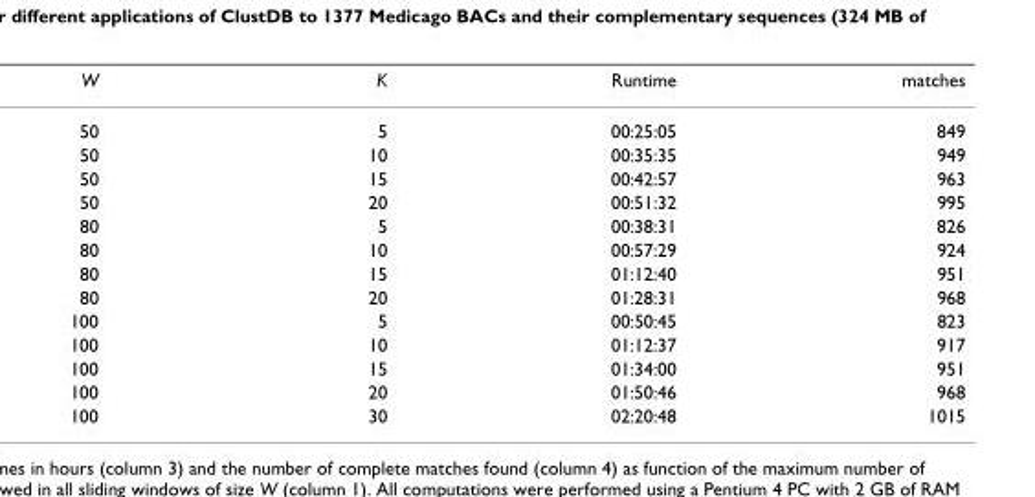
<table><thead><tr><td>W</td><td>K</td><td>Runtime</td><td>matches</td></tr></thead><tbody><tr><td>50</td><td>5</td><td>00:25:05</td><td>849</td></tr><tr><td>50</td><td>10</td><td>00:35:35</td><td>949</td></tr><tr><td>50</td><td>15</td><td>00:42:57</td><td>963</td></tr><tr><td>50</td><td>20</td><td>00:51:32</td><td>995</td></tr><tr><td>80</td><td>5</td><td>00:38:31</td><td>826</td></tr><tr><td>80</td><td>10</td><td>00:57:29</td><td>924</td></tr><tr><td>80</td><td>15</td><td>01:12:40</td><td>951</td></tr><tr><td>80</td><td>20</td><td>01:28:31</td><td>968</td></tr><tr><td>100</td><td>5</td><td>00:50:45</td><td>823</td></tr><tr><td>100</td><td>10</td><td>01:12:37</td><td>917</td></tr><tr><td>100</td><td>15</td><td>01:34:00</td><td>951</td></tr><tr><td>100</td><td>20</td><td>01:50:46</td><td>968</td></tr><tr><td>100</td><td>30</td><td>02:20:48</td><td>1015</td></tr></tbody></table>